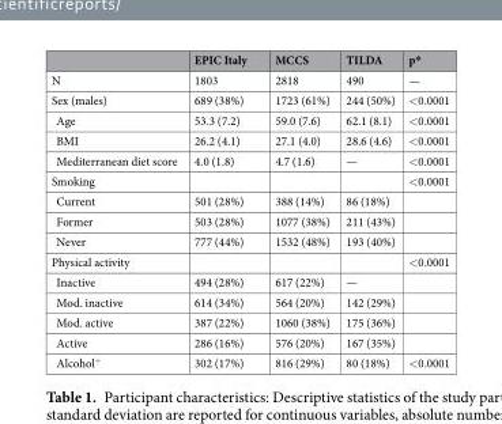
<table><thead><tr><td></td><td>EPIC Italy</td><td>MCCS</td><td>TILDA</td><td>p*</td></tr></thead><tbody><tr><td>N</td><td>1803</td><td>2818</td><td>490</td><td>—</td></tr><tr><td>Sex (males)</td><td>689 (38%)</td><td>1723 (61%)</td><td>244 (50%)</td><td>&lt;0.0001</td></tr><tr><td>Age</td><td>53.3 (7.2)</td><td>59.0 (7.6)</td><td>62.1 (8.1)</td><td>&lt;0.0001</td></tr><tr><td>BMI</td><td>26.2 (4.1)</td><td>27.1 (4.0)</td><td>28.6 (4.6)</td><td>&lt;0.0001</td></tr><tr><td>Mediterranean diet score</td><td>4.0 (1.8)</td><td>4.7 (1.6)</td><td>—</td><td>&lt;0.0001</td></tr><tr><td>Smoking</td><td></td><td></td><td></td><td>&lt;0.0001</td></tr><tr><td>Current</td><td>501 (28%)</td><td>388 (14%)</td><td>86 (18%)</td><td></td></tr><tr><td>Former</td><td>503 (28%)</td><td>1077 (38%)</td><td>211 (43%)</td><td></td></tr><tr><td>Never</td><td>777 (44%)</td><td>1532 (48%)</td><td>193 (40%)</td><td></td></tr><tr><td>Physical activity</td><td></td><td></td><td></td><td>&lt;0.0001</td></tr><tr><td>Inactive</td><td>494 (28%)</td><td>617 (22%)</td><td>—</td><td></td></tr><tr><td>Mod. inactive</td><td>614 (34%)</td><td>564 (20%)</td><td>142 (29%)</td><td></td></tr><tr><td>Mod. active</td><td>387 (22%)</td><td>1060 (38%)</td><td>175 (36%)</td><td></td></tr><tr><td>Active</td><td>286 (16%)</td><td>576 (20%)</td><td>167 (35%)</td><td></td></tr><tr><td>Alcohol<sup>+</sup></td><td>302 (17%)</td><td>816 (29%)</td><td>80 (18%)</td><td>&lt;0.0001</td></tr></tbody></table>